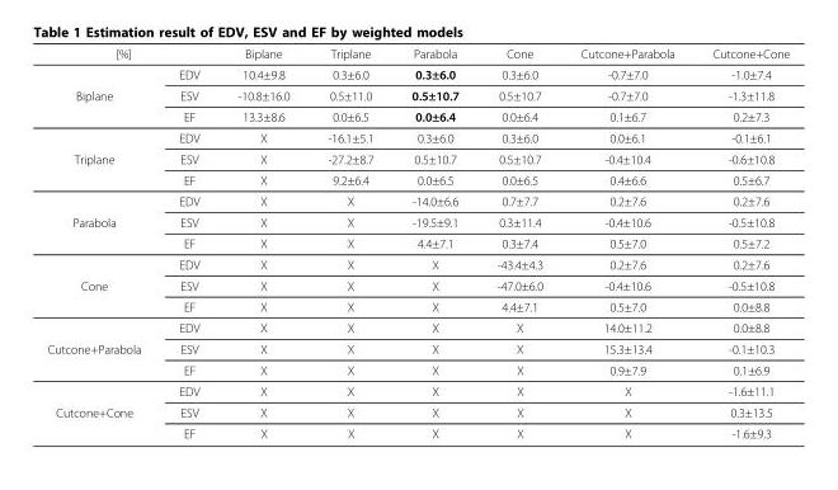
<table><thead><tr><td colspan="2">[%]</td><td rowspan="2">Biplane 10.4±9.8</td><td rowspan="2">Triplane 0.3±6.0</td><td rowspan="2">Parabola 0.3±6.0</td><td rowspan="2">Cone 0.3±6.0</td><td rowspan="2">Cutcone+Parabola -0.7±7.0</td><td rowspan="2">Cutcone+Cone -1.0±7.4</td></tr><tr><td></td><td>EDV</td></tr></thead><tbody><tr><td rowspan="3">Biplane</td><td>ESV</td><td>-10.8±16.0</td><td>0.5±11.0</td><td>0.5±10.7</td><td>0.5±10.7</td><td>-0.7±7.0</td><td>-1.3±11.8</td></tr><tr><td>EF</td><td>13.3±8.6</td><td>0.0±6.5</td><td>0.0±6.4</td><td>0.0±6.4</td><td>0.1±6.7</td><td>0.2±7.3</td></tr><tr><td>EDV</td><td>X</td><td>-16.1±5.1</td><td>0.3±6.0</td><td>0.3±6.0</td><td>0.0±6.1</td><td>-0.1±6.1</td></tr><tr><td rowspan="3">Triplane</td><td>ESV</td><td>X</td><td>-27.2±8.7</td><td>0.5±10.7</td><td>0.5±10.7</td><td>-0.4±10.4</td><td>-0.6±10.8</td></tr><tr><td>EF</td><td>X</td><td>9.2±6.4</td><td>0.0±6.5</td><td>0.0±6.5</td><td>0.4±6.6</td><td>0.5±6.7</td></tr><tr><td>EDV</td><td>X</td><td>X</td><td>-14.0±6.6</td><td>0.7±7.7</td><td>0.2±7.6</td><td>0.2±7.6</td></tr><tr><td rowspan="3">Parabola</td><td>ESV</td><td>X</td><td>X</td><td>-19.5±9.1</td><td>0.3±11.4</td><td>-0.4±10.6</td><td>-0.5±10.8</td></tr><tr><td>EF</td><td>X</td><td>X</td><td>4.4±7.1</td><td>0.3±7.4</td><td>0.5±7.0</td><td>0.5±7.2</td></tr><tr><td>EDV</td><td>X</td><td>X</td><td>X</td><td>-43.4±4.3</td><td>0.2±7.6</td><td>0.2±7.6</td></tr><tr><td rowspan="3">Cone</td><td>ESV</td><td>X</td><td>X</td><td>X</td><td>-47.0±6.0</td><td>-0.4±10.6</td><td>-0.5±10.8</td></tr><tr><td>EF</td><td>X</td><td>X</td><td>X</td><td>4.4±7.1</td><td>0.5±7.0</td><td>0.0±8.8</td></tr><tr><td>EDV</td><td>X</td><td>X</td><td>X</td><td>X</td><td>14.0±11.2</td><td>0.0±8.8</td></tr><tr><td rowspan="3">Cutcone+Parabola</td><td>ESV</td><td>X</td><td>X</td><td>X</td><td>X</td><td>15.3±13.4</td><td>-0.1±10.3</td></tr><tr><td>EF</td><td>X</td><td>X</td><td>X</td><td>X</td><td>0.9±7.9</td><td>0.1±6.9</td></tr><tr><td>EDV</td><td>X</td><td>X</td><td>X</td><td>X</td><td>X</td><td>-1.6±11.1</td></tr><tr><td rowspan="2">Cutcone+Cone</td><td>ESV</td><td>X</td><td>X</td><td>X</td><td>X</td><td>X</td><td>0.3±13.5</td></tr><tr><td>EF</td><td>X</td><td>X</td><td>X</td><td>X</td><td>X</td><td>-1.6±9.3</td></tr></tbody></table>